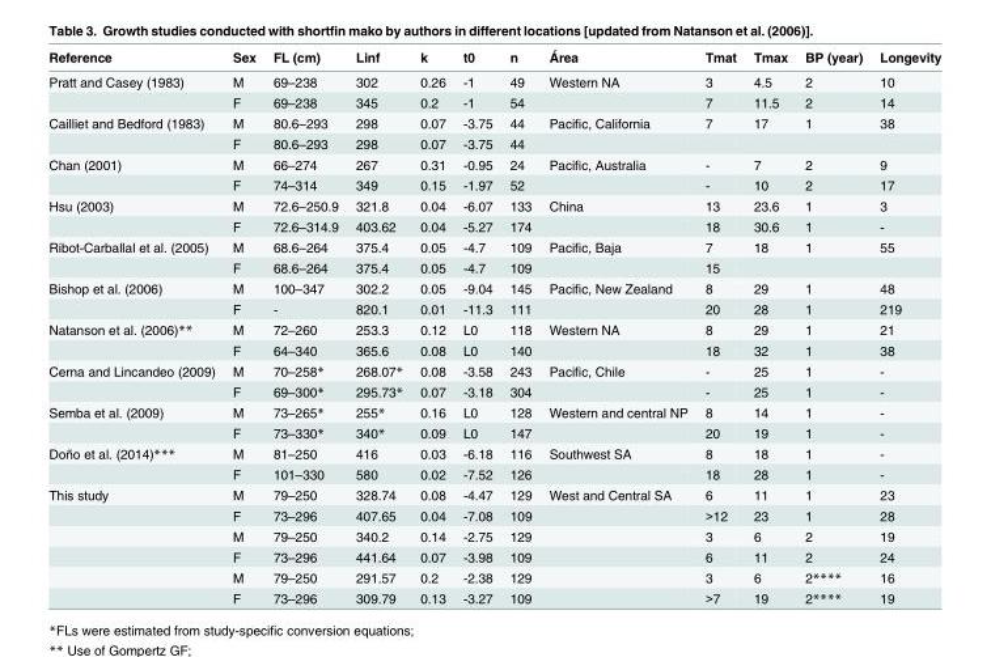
<table><thead><tr><td>Reference</td><td>Sex</td><td>FL (cm)</td><td>Linf</td><td>k</td><td>t0</td><td>n</td><td>Área</td><td>Tmat</td><td>Tmax</td><td>BP (year)</td><td>Longevity</td></tr></thead><tbody><tr><td rowspan="2">Pratt and Casey (1983)</td><td>M</td><td>69–238</td><td>302</td><td>0.26</td><td>-1</td><td>49</td><td>Western NA</td><td>3</td><td>4.5</td><td>2</td><td>10</td></tr><tr><td>F</td><td>69–238</td><td>345</td><td>0.2</td><td>-1</td><td>54</td><td></td><td>7</td><td>11.5</td><td>2</td><td>14</td></tr><tr><td rowspan="2">Cailliet and Bedford (1983)</td><td>M</td><td>80.6–293</td><td>298</td><td>0.07</td><td>-3.75</td><td>44</td><td>Pacific, California</td><td>7</td><td>17</td><td>1</td><td>38</td></tr><tr><td>F</td><td>80.6–293</td><td>298</td><td>0.07</td><td>-3.75</td><td>44</td><td></td><td></td><td></td><td></td><td></td></tr><tr><td rowspan="2">Chan (2001)</td><td>M</td><td>66–274</td><td>267</td><td>0.31</td><td>-0.95</td><td>24</td><td>Pacific, Australia</td><td>-</td><td>7</td><td>2</td><td>9</td></tr><tr><td>F</td><td>74–314</td><td>349</td><td>0.15</td><td>-1.97</td><td>52</td><td></td><td>-</td><td>10</td><td>2</td><td>17</td></tr><tr><td rowspan="2">Hsu (2003)</td><td>M</td><td>72.6–250.9</td><td>321.8</td><td>0.04</td><td>-6.07</td><td>133</td><td>China</td><td>13</td><td>23.6</td><td>1</td><td>3</td></tr><tr><td>F</td><td>72.6–314.9</td><td>403.62</td><td>0.04</td><td>-5.27</td><td>174</td><td></td><td>18</td><td>30.6</td><td>1</td><td>-</td></tr><tr><td rowspan="2">Ribot-Carballal et al. (2005)</td><td>M</td><td>68.6–264</td><td>375.4</td><td>0.05</td><td>-4.7</td><td>109</td><td>Pacific, Baja</td><td>7</td><td>18</td><td>1</td><td>55</td></tr><tr><td>F</td><td>68.6–264</td><td>375.4</td><td>0.05</td><td>-4.7</td><td>109</td><td></td><td>15</td><td></td><td></td><td></td></tr><tr><td rowspan="2">Bishop et al. (2006)</td><td>M</td><td>100–347</td><td>302.2</td><td>0.05</td><td>-9.04</td><td>145</td><td>Pacific, New Zealand</td><td>8</td><td>29</td><td>1</td><td>48</td></tr><tr><td>F</td><td>-</td><td>820.1</td><td>0.01</td><td>-11.3</td><td>111</td><td></td><td>20</td><td>28</td><td>1</td><td>219</td></tr><tr><td rowspan="2">Natanson et al. (2006)**</td><td>M</td><td>72–260</td><td>253.3</td><td>0.12</td><td>L0</td><td>118</td><td>Western NA</td><td>8</td><td>29</td><td>1</td><td>21</td></tr><tr><td>F</td><td>64–340</td><td>365.6</td><td>0.08</td><td>L0</td><td>140</td><td></td><td>18</td><td>32</td><td>1</td><td>38</td></tr><tr><td rowspan="2">Cerna and Lincandeo (2009)</td><td>M</td><td>70–258*</td><td>268.07*</td><td>0.08</td><td>-3.58</td><td>243</td><td>Pacific, Chile</td><td>-</td><td>25</td><td>1</td><td>-</td></tr><tr><td>F</td><td>69–300*</td><td>295.73*</td><td>0.07</td><td>-3.18</td><td>304</td><td></td><td>-</td><td>25</td><td>1</td><td>-</td></tr><tr><td rowspan="2">Semba et al. (2009)</td><td>M</td><td>73–265*</td><td>255*</td><td>0.16</td><td>L0</td><td>128</td><td>Western and central NP</td><td>8</td><td>14</td><td>1</td><td>-</td></tr><tr><td>F</td><td>73–330*</td><td>340*</td><td>0.09</td><td>L0</td><td>147</td><td></td><td>20</td><td>19</td><td>1</td><td>-</td></tr><tr><td rowspan="2">Doño et al. (2014)***</td><td>M</td><td>81–250</td><td>416</td><td>0.03</td><td>-6.18</td><td>116</td><td>Southwest SA</td><td>8</td><td>18</td><td>1</td><td>-</td></tr><tr><td>F</td><td>101–330</td><td>580</td><td>0.02</td><td>-7.52</td><td>126</td><td></td><td>18</td><td>28</td><td>1</td><td>-</td></tr><tr><td rowspan="6">This study</td><td>M</td><td>79–250</td><td>328.74</td><td>0.08</td><td>-4.47</td><td>129</td><td>West and Central SA</td><td>6</td><td>11</td><td>1</td><td>23</td></tr><tr><td>F</td><td>73–296</td><td>407.65</td><td>0.04</td><td>-7.08</td><td>109</td><td></td><td>&gt;12</td><td>23</td><td>1</td><td>28</td></tr><tr><td>M</td><td>79–250</td><td>340.2</td><td>0.14</td><td>-2.75</td><td>129</td><td></td><td>3</td><td>6</td><td>2</td><td>19</td></tr><tr><td>F</td><td>73–296</td><td>441.64</td><td>0.07</td><td>-3.98</td><td>109</td><td></td><td>6</td><td>11</td><td>2</td><td>24</td></tr><tr><td>M</td><td>79–250</td><td>291.57</td><td>0.2</td><td>-2.38</td><td>129</td><td></td><td>3</td><td>6</td><td>2****</td><td>16</td></tr><tr><td>F</td><td>73–296</td><td>309.79</td><td>0.13</td><td>-3.27</td><td>109</td><td></td><td>&gt;7</td><td>19</td><td>2****</td><td>19</td></tr></tbody></table>